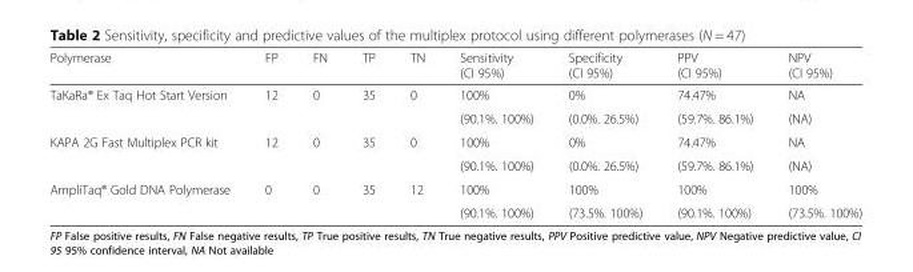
<table><thead><tr><td>Polymerase</td><td>FP</td><td>FN</td><td>TP</td><td>TN</td><td>Sensitivity (CI 95%)</td><td>Specificity (CI 95%)</td><td>PPV (CI 95%)</td><td>NPV (CI 95%)</td></tr></thead><tbody><tr><td rowspan="2">TaKaRa® Ex Taq Hot Start Version</td><td rowspan="2">12</td><td rowspan="2">0</td><td rowspan="2">35</td><td rowspan="2">0</td><td>100%</td><td>0%</td><td>74.47%</td><td>NA</td></tr><tr><td>(90.1%. 100%)</td><td>(0.0%. 26.5%)</td><td>(59.7%. 86.1%)</td><td>(NA)</td></tr><tr><td rowspan="2">KAPA 2G Fast Multiplex PCR kit</td><td rowspan="2">12</td><td rowspan="2">0</td><td rowspan="2">35</td><td rowspan="2">0</td><td>100%</td><td>0%</td><td>74.47%</td><td>NA</td></tr><tr><td>(90.1%. 100%)</td><td>(0.0%. 26.5%)</td><td>(59.7%. 86.1%)</td><td>(NA)</td></tr><tr><td rowspan="2">AmpliTaq® Gold DNA Polymerase</td><td rowspan="2">0</td><td rowspan="2">0</td><td rowspan="2">35</td><td rowspan="2">12</td><td>100%</td><td>100%</td><td>100%</td><td>100%</td></tr><tr><td>(90.1%. 100%)</td><td>(73.5%. 100%)</td><td>(90.1%. 100%)</td><td>(73.5%. 100%)</td></tr></tbody></table>